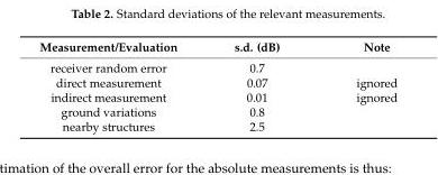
<table><thead><tr><td>Measurement/Evaluation</td><td>s.d. (dB)</td><td>Note</td></tr></thead><tbody><tr><td>receiver random error</td><td>0.7</td><td></td></tr><tr><td>direct measurement</td><td>0.07</td><td>ignored</td></tr><tr><td>indirect measurement</td><td>0.01</td><td>ignored</td></tr><tr><td>ground variations</td><td>0.8</td><td></td></tr><tr><td>nearby structures</td><td>2.5</td><td></td></tr></tbody></table>